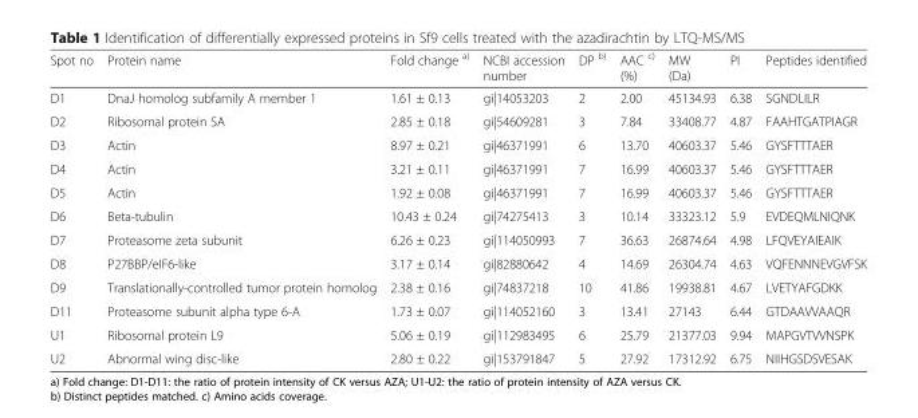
<table><thead><tr><td>Spot no</td><td>Protein name</td><td>Fold change <sup>a)</sup></td><td>NCBI accession number</td><td>DP <sup>b)</sup></td><td>AAC <sup>c)</sup> (%)</td><td>MW (Da)</td><td>PI</td><td>Peptides identified</td></tr></thead><tbody><tr><td>D1</td><td>DnaJ homolog subfamily A member 1</td><td>1.61 ± 0.13</td><td>gi|14053203</td><td>2</td><td>2.00</td><td>45134.93</td><td>6.38</td><td>SGNDLILR</td></tr><tr><td>D2</td><td>Ribosomal protein SA</td><td>2.85 ± 0.18</td><td>gi|54609281</td><td>3</td><td>7.84</td><td>33408.77</td><td>4.87</td><td>FAAHTGATPIAGR</td></tr><tr><td>D3</td><td>Actin</td><td>8.97 ± 0.21</td><td>gi|46371991</td><td>6</td><td>13.70</td><td>40603.37</td><td>5.46</td><td>GYSFTTTAER</td></tr><tr><td>D4</td><td>Actin</td><td>3.21 ± 0.11</td><td>gi|46371991</td><td>7</td><td>16.99</td><td>40603.37</td><td>5.46</td><td>GYSFTTTAER</td></tr><tr><td>D5</td><td>Actin</td><td>1.92 ± 0.08</td><td>gi|46371991</td><td>7</td><td>16.99</td><td>40603.37</td><td>5.46</td><td>GYSFTTTAER</td></tr><tr><td>D6</td><td>Beta-tubulin</td><td>10.43 ± 0.24</td><td>gi|74275413</td><td>3</td><td>10.14</td><td>33323.12</td><td>5.9</td><td>EVDEQMLNIQNK</td></tr><tr><td>D7</td><td>Proteasome zeta subunit</td><td>6.26 ± 0.23</td><td>gi|114050993</td><td>7</td><td>36.63</td><td>26874.64</td><td>4.98</td><td>LFQVEYAIEAIK</td></tr><tr><td>D8</td><td>P27BBP/eIF6-like</td><td>3.17 ± 0.14</td><td>gi|82880642</td><td>4</td><td>14.69</td><td>26304.74</td><td>4.63</td><td>VQFENNNEVGVFSK</td></tr><tr><td>D9</td><td>Translationally-controlled tumor protein homolog</td><td>2.38 ± 0.16</td><td>gi|74837218</td><td>10</td><td>41.86</td><td>19938.81</td><td>4.67</td><td>LVETYAFGDKK</td></tr><tr><td>D11</td><td>Proteasome subunit alpha type 6-A</td><td>1.73 ± 0.07</td><td>gi|114052160</td><td>3</td><td>13.41</td><td>27143</td><td>6.44</td><td>GTDAAVVAAQR</td></tr><tr><td>U1</td><td>Ribosomal protein L9</td><td>5.06 ± 0.19</td><td>gi|112983495</td><td>6</td><td>25.79</td><td>21377.03</td><td>9.94</td><td>MAPGVTVVNSPK</td></tr><tr><td>U2</td><td>Abnormal wing disc-like</td><td>2.80 ± 0.22</td><td>gi|153791847</td><td>5</td><td>27.92</td><td>17312.92</td><td>6.75</td><td>NIIHGSDSVESAK</td></tr></tbody></table>